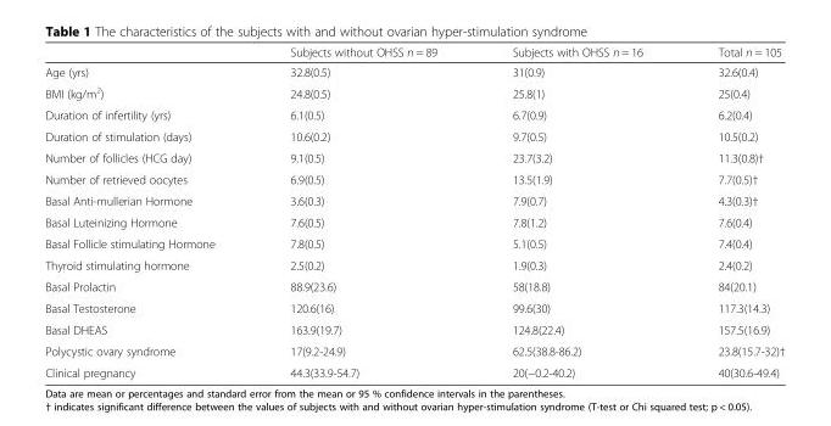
<table><thead><tr><td></td><td>Subjects without OHSS n = 89</td><td>Subjects with OHSS n = 16</td><td>Total n = 105</td></tr></thead><tbody><tr><td>Age (yrs)</td><td>32.8(0.5)</td><td>31(0.9)</td><td>32.6(0.4)</td></tr><tr><td>BMI (kg/m<sup>2</sup>)</td><td>24.8(0.5)</td><td>25.8(1)</td><td>25(0.4)</td></tr><tr><td>Duration of infertility (yrs)</td><td>6.1(0.5)</td><td>6.7(0.9)</td><td>6.2(0.4)</td></tr><tr><td>Duration of stimulation (days)</td><td>10.6(0.2)</td><td>9.7(0.5)</td><td>10.5(0.2)</td></tr><tr><td>Number of follicles (HCG day)</td><td>9.1(0.5)</td><td>23.7(3.2)</td><td>11.3(0.8)†</td></tr><tr><td>Number of retrieved oocytes</td><td>6.9(0.5)</td><td>13.5(1.9)</td><td>7.7(0.5)†</td></tr><tr><td>Basal Anti-mullerian Hormone</td><td>3.6(0.3)</td><td>7.9(0.7)</td><td>4.3(0.3)†</td></tr><tr><td>Basal Luteinizing Hormone</td><td>7.6(0.5)</td><td>7.8(1.2)</td><td>7.6(0.4)</td></tr><tr><td>Basal Follicle stimulating Hormone</td><td>7.8(0.5)</td><td>5.1(0.5)</td><td>7.4(0.4)</td></tr><tr><td>Thyroid stimulating hormone</td><td>2.5(0.2)</td><td>1.9(0.3)</td><td>2.4(0.2)</td></tr><tr><td>Basal Prolactin</td><td>88.9(23.6)</td><td>58(18.8)</td><td>84(20.1)</td></tr><tr><td>Basal Testosterone</td><td>120.6(16)</td><td>99.6(30)</td><td>117.3(14.3)</td></tr><tr><td>Basal DHEAS</td><td>163.9(19.7)</td><td>124.8(22.4)</td><td>157.5(16.9)</td></tr><tr><td>Polycystic ovary syndrome</td><td>17(9.2-24.9)</td><td>62.5(38.8-86.2)</td><td>23.8(15.7-32)†</td></tr><tr><td>Clinical pregnancy</td><td>44.3(33.9-54.7)</td><td>20(−0.2-40.2)</td><td>40(30.6-49.4)</td></tr></tbody></table>